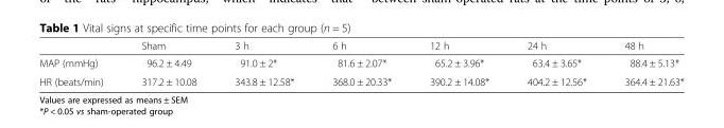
<table><thead><tr><td></td><td>Sham</td><td>3 h</td><td>6 h</td><td>12 h</td><td>24 h</td><td>48 h</td></tr></thead><tbody><tr><td>MAP (mmHg)</td><td>96.2 ± 4.49</td><td>91.0 ± 2*</td><td>81.6 ± 2.07*</td><td>65.2 ± 3.96*</td><td>63.4 ± 3.65*</td><td>88.4 ± 5.13*</td></tr><tr><td>HR (beats/min)</td><td>317.2 ± 10.08</td><td>343.8 ± 12.58*</td><td>368.0 ± 20.33*</td><td>390.2 ± 14.08*</td><td>404.2 ± 12.56*</td><td>364.4 ± 21.63*</td></tr></tbody></table>